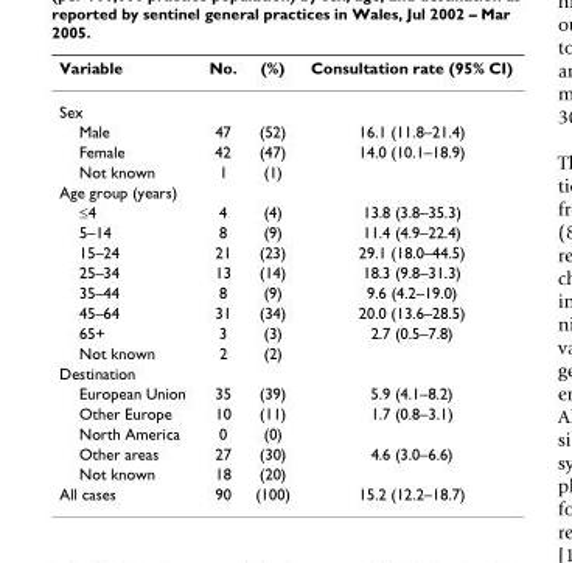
<table><thead><tr><td>Variable</td><td>No.</td><td>(%)</td><td>Consultation rate (95% CI)</td></tr></thead><tbody><tr><td colspan="4">Sex</td></tr><tr><td>Male</td><td>47</td><td>(52)</td><td>16.1 (11.8–21.4)</td></tr><tr><td>Female</td><td>42</td><td>(47)</td><td>14.0 (10.1–18.9)</td></tr><tr><td>Not known</td><td>1</td><td>(1)</td><td></td></tr><tr><td colspan="4">Age group (years)</td></tr><tr><td>≤4</td><td>4</td><td>(4)</td><td>13.8 (3.8–35.3)</td></tr><tr><td>5–14</td><td>8</td><td>(9)</td><td>11.4 (4.9–22.4)</td></tr><tr><td>15–24</td><td>21</td><td>(23)</td><td>29.1 (18.0–44.5)</td></tr><tr><td>25–34</td><td>13</td><td>(14)</td><td>18.3 (9.8–31.3)</td></tr><tr><td>35–44</td><td>8</td><td>(9)</td><td>9.6 (4.2–19.0)</td></tr><tr><td>45–64</td><td>31</td><td>(34)</td><td>20.0 (13.6–28.5)</td></tr><tr><td>65+</td><td>3</td><td>(3)</td><td>2.7 (0.5–7.8)</td></tr><tr><td>Not known</td><td>2</td><td>(2)</td><td></td></tr><tr><td colspan="4">Destination</td></tr><tr><td>European Union</td><td>35</td><td>(39)</td><td>5.9 (4.1–8.2)</td></tr><tr><td>Other Europe</td><td>10</td><td>(11)</td><td>1.7 (0.8–3.1)</td></tr><tr><td>North America</td><td>0</td><td>(0)</td><td></td></tr><tr><td>Other areas</td><td>27</td><td>(30)</td><td>4.6 (3.0–6.6)</td></tr><tr><td>Not known</td><td>18</td><td>(20)</td><td></td></tr><tr><td>All cases</td><td>90</td><td>(100)</td><td>15.2 (12.2–18.7)</td></tr></tbody></table>